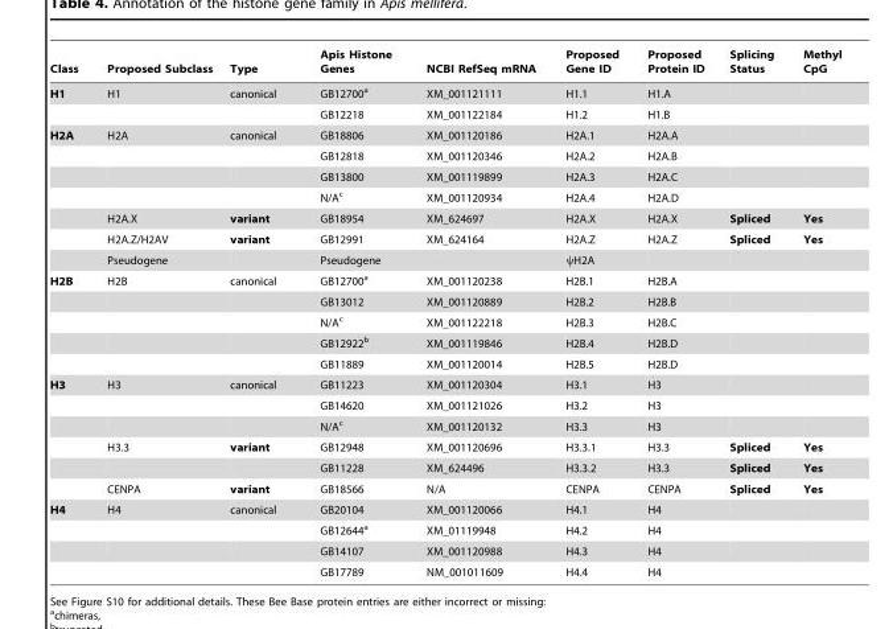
<table><thead><tr><td>Class</td><td>Proposed Subclass</td><td>Type</td><td>Apis Histone Genes</td><td>NCBI RefSeq mRNA</td><td>Proposed Gene ID</td><td>Proposed Protein ID</td><td>Splicing Status</td><td>Methyl CpG</td></tr></thead><tbody><tr><td rowspan="2">H1</td><td>H1</td><td>canonical</td><td>GB12700<sup>a</sup></td><td>XM_001121111</td><td>H1.1</td><td>H1.A</td><td></td><td></td></tr><tr><td></td><td></td><td>GB12218</td><td>XM_001122184</td><td>H1.2</td><td>H1.B</td><td></td><td></td></tr><tr><td rowspan="7">H2A</td><td>H2A</td><td>canonical</td><td>GB18806</td><td>XM_001120186</td><td>H2A.1</td><td>H2A.A</td><td></td><td></td></tr><tr><td></td><td></td><td>GB12818</td><td>XM_001120346</td><td>H2A.2</td><td>H2A.B</td><td></td><td></td></tr><tr><td></td><td></td><td>GB13800</td><td>XM_001119899</td><td>H2A.3</td><td>H2A.C</td><td></td><td></td></tr><tr><td></td><td></td><td>N/A<sup>c</sup></td><td>XM_001120934</td><td>H2A.4</td><td>H2A.D</td><td></td><td></td></tr><tr><td>H2A.X</td><td>variant</td><td>GB18954</td><td>XM_624697</td><td>H2A.X</td><td>H2A.X</td><td>Spliced</td><td>Yes</td></tr><tr><td>H2A.Z/H2AV</td><td>variant</td><td>GB12991</td><td>XM_624164</td><td>H2A.Z</td><td>H2A.Z</td><td>Spliced</td><td>Yes</td></tr><tr><td>Pseudogene</td><td></td><td>Pseudogene</td><td></td><td>ψH2A</td><td></td><td></td><td></td></tr><tr><td rowspan="5">H2B</td><td>H2B</td><td>canonical</td><td>GB12700<sup>a</sup></td><td>XM_001120238</td><td>H2B.1</td><td>H2B.A</td><td></td><td></td></tr><tr><td></td><td></td><td>GB13012</td><td>XM_001120889</td><td>H2B.2</td><td>H2B.B</td><td></td><td></td></tr><tr><td></td><td></td><td>N/A<sup>c</sup></td><td>XM_001122218</td><td>H2B.3</td><td>H2B.C</td><td></td><td></td></tr><tr><td></td><td></td><td>GB12922<sup>b</sup></td><td>XM_001119846</td><td>H2B.4</td><td>H2B.D</td><td></td><td></td></tr><tr><td></td><td></td><td>GB11889</td><td>XM_001120014</td><td>H2B.5</td><td>H2B.D</td><td></td><td></td></tr><tr><td rowspan="6">H3</td><td>H3</td><td>canonical</td><td>GB11223</td><td>XM_001120304</td><td>H3.1</td><td>H3</td><td></td><td></td></tr><tr><td></td><td></td><td>GB14620</td><td>XM_001121026</td><td>H3.2</td><td>H3</td><td></td><td></td></tr><tr><td></td><td></td><td>N/A<sup>c</sup></td><td>XM_001120132</td><td>H3.3</td><td>H3</td><td></td><td></td></tr><tr><td>H3.3</td><td>variant</td><td>GB12948</td><td>XM_001120696</td><td>H3.3.1</td><td>H3.3</td><td>Spliced</td><td>Yes</td></tr><tr><td></td><td></td><td>GB11228</td><td>XM_624496</td><td>H3.3.2</td><td>H3.3</td><td>Spliced</td><td>Yes</td></tr><tr><td>CENPA</td><td>variant</td><td>GB18566</td><td>N/A</td><td>CENPA</td><td>CENPA</td><td>Spliced</td><td>Yes</td></tr><tr><td rowspan="4">H4</td><td>H4</td><td>canonical</td><td>GB20104</td><td>XM_001120066</td><td>H4.1</td><td>H4</td><td></td><td></td></tr><tr><td></td><td></td><td>GB12644<sup>a</sup></td><td>XM_01119948</td><td>H4.2</td><td>H4</td><td></td><td></td></tr><tr><td></td><td></td><td>GB14107</td><td>XM_001120988</td><td>H4.3</td><td>H4</td><td></td><td></td></tr><tr><td></td><td></td><td>GB17789</td><td>NM_001011609</td><td>H4.4</td><td>H4</td><td></td><td></td></tr></tbody></table>